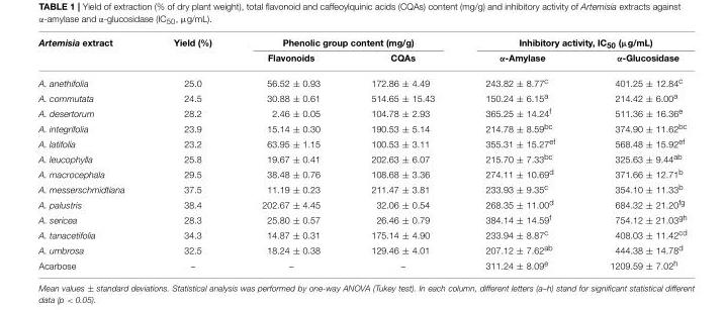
<table><thead><tr><td rowspan="2">Artemisia extract</td><td rowspan="2">Yield (%)</td><td colspan="2">Phenolic group content (mg/g)</td><td colspan="2">Inhibitory activity, IC<sub>50</sub> (µg/mL)</td></tr><tr><td>Flavonoids</td><td>CQAs</td><td>α-Amylase</td><td>α-Glucosidase</td></tr></thead><tbody><tr><td>A. anethifolia</td><td>25.0</td><td>56.52 ± 0.93</td><td>172.86 ± 4.49</td><td>243.82 ± 8.77<sup>c</sup></td><td>401.25 ± 12.84<sup>c</sup></td></tr><tr><td>A. commutata</td><td>24.5</td><td>30.88 ± 0.61</td><td>514.65 ± 15.43</td><td>150.24 ± 6.15<sup>a</sup></td><td>214.42 ± 6.00<sup>a</sup></td></tr><tr><td>A. desertorum</td><td>28.2</td><td>2.46 ± 0.05</td><td>104.78 ± 2.93</td><td>365.25 ± 14.24<sup>f</sup></td><td>511.36 ± 16.36<sup>e</sup></td></tr><tr><td>A. integrifolia</td><td>23.9</td><td>15.14 ± 0.30</td><td>190.53 ± 5.14</td><td>214.78 ± 8.59<sup>bc</sup></td><td>374.90 ± 11.62<sup>bc</sup></td></tr><tr><td>A. latifolia</td><td>23.2</td><td>63.95 ± 1.15</td><td>100.53 ± 3.11</td><td>355.31 ± 15.27<sup>ef</sup></td><td>568.48 ± 15.92<sup>ef</sup></td></tr><tr><td>A. leucophylla</td><td>25.8</td><td>19.67 ± 0.41</td><td>202.63 ± 6.07</td><td>215.70 ± 7.33<sup>bc</sup></td><td>325.63 ± 9.44<sup>ab</sup></td></tr><tr><td>A. macrocephala</td><td>29.5</td><td>38.48 ± 0.76</td><td>108.68 ± 3.36</td><td>274.11 ± 10.69<sup>d</sup></td><td>371.66 ± 12.71<sup>b</sup></td></tr><tr><td>A. messerschmidtiana</td><td>37.5</td><td>11.19 ± 0.23</td><td>211.47 ± 3.81</td><td>233.93 ± 9.35<sup>c</sup></td><td>354.10 ± 11.33<sup>b</sup></td></tr><tr><td>A. palustris</td><td>38.4</td><td>202.67 ± 4.45</td><td>32.06 ± 0.54</td><td>268.35 ± 11.00<sup>d</sup></td><td>684.32 ± 21.20<sup>fg</sup></td></tr><tr><td>A. sericea</td><td>28.3</td><td>25.80 ± 0.57</td><td>26.46 ± 0.79</td><td>384.14 ± 14.59<sup>f</sup></td><td>754.12 ± 21.03<sup>gh</sup></td></tr><tr><td>A. tanacetifolia</td><td>34.3</td><td>14.87 ± 0.31</td><td>175.14 ± 4.90</td><td>233.94 ± 8.87<sup>c</sup></td><td>408.03 ± 11.42<sup>cd</sup></td></tr><tr><td>A. umbrosa</td><td>32.5</td><td>18.24 ± 0.38</td><td>129.46 ± 4.01</td><td>207.12 ± 7.62<sup>ab</sup></td><td>444.38 ± 14.78<sup>d</sup></td></tr><tr><td>Acarbose</td><td>–</td><td>–</td><td>–</td><td>311.24 ± 8.09<sup>e</sup></td><td>1209.59 ± 7.02<sup>h</sup></td></tr></tbody></table>